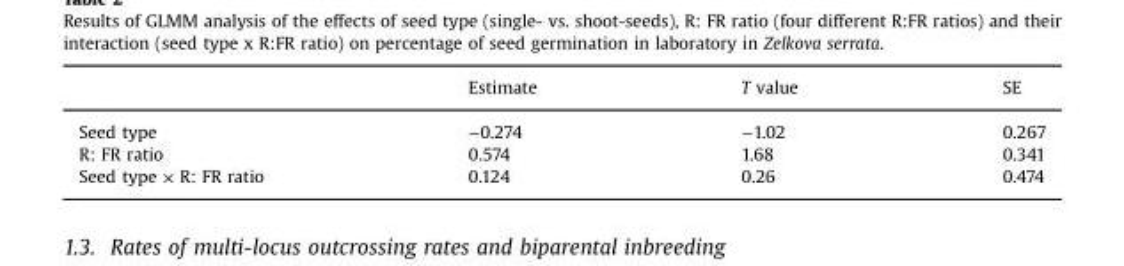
<table><thead><tr><td></td><td>Estimate</td><td>T value</td><td>SE</td></tr></thead><tbody><tr><td>Seed type</td><td>−0.274</td><td>−1.02</td><td>0.267</td></tr><tr><td>R: FR ratio</td><td>0.574</td><td>1.68</td><td>0.341</td></tr><tr><td>Seed type × R: FR ratio</td><td>0.124</td><td>0.26</td><td>0.474</td></tr></tbody></table>